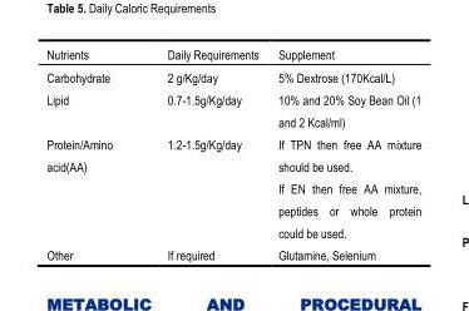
<table><thead><tr><td>Nutrients</td><td>Daily Requirements</td><td>Supplement</td></tr></thead><tbody><tr><td>Carbohydrate</td><td>2 g/Kg/day</td><td>5% Dextrose (170Kcal/L)</td></tr><tr><td>Lipid</td><td>0.7-1.5g/Kg/day</td><td>10% and 20% Soy Bean Oil (1 and 2 Kcal/ml)</td></tr><tr><td rowspan="2">Protein/Amino acid(AA)</td><td rowspan="2">1.2-1.5g/Kg/day</td><td>If TPN then free AA mixture should be used.</td></tr><tr><td>If EN then free AA mixture, peptides or whole protein could be used.</td></tr><tr><td>Other</td><td>If required</td><td>Glutamine, Selenium</td></tr></tbody></table>